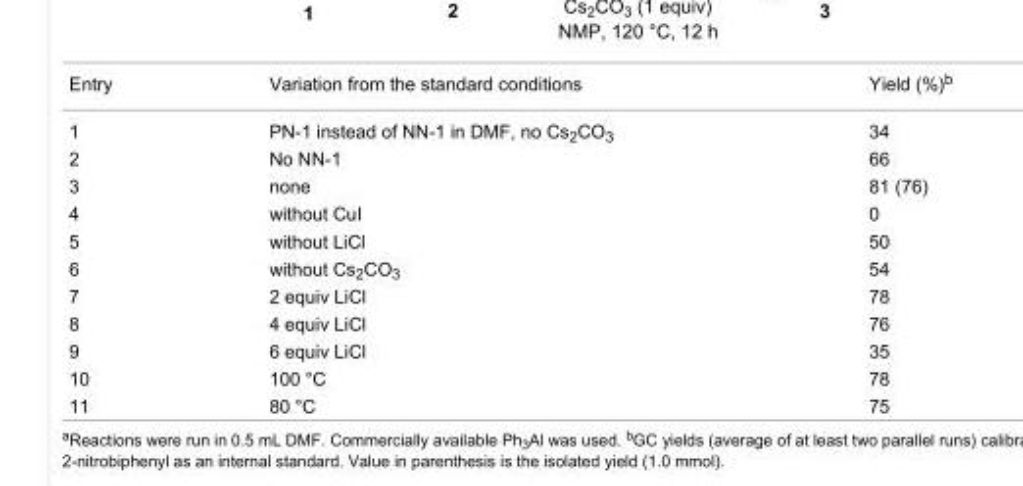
<table><tbody><tr><td>Entry</td><td>Variation from the standard conditions</td><td>Yield (%)<sup>b</sup></td></tr><tr><td>1</td><td>PN-1 instead of NN-1 in DMF, no Cs<sub>2</sub>CO<sub>3</sub></td><td>34</td></tr><tr><td>2</td><td>No NN-1</td><td>66</td></tr><tr><td>3</td><td>none</td><td>81 (76)</td></tr><tr><td>4</td><td>without CuI</td><td>0</td></tr><tr><td>5</td><td>without LiCl</td><td>50</td></tr><tr><td>6</td><td>without Cs<sub>2</sub>CO<sub>3</sub></td><td>54</td></tr><tr><td>7</td><td>2 equiv LiCl</td><td>78</td></tr><tr><td>8</td><td>4 equiv LiCl</td><td>76</td></tr><tr><td>9</td><td>6 equiv LiCl</td><td>35</td></tr><tr><td>10</td><td>100 °C</td><td>78</td></tr><tr><td>11</td><td>80 °C</td><td>75</td></tr></tbody></table>